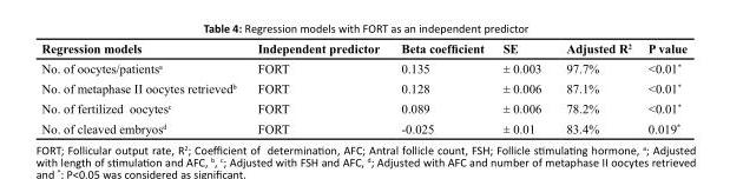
<table><thead><tr><td>Regression models</td><td>Independent predictor</td><td>Beta coefficient</td><td>SE</td><td>Adjusted R<sup>2</sup></td><td>P value</td></tr></thead><tbody><tr><td>No. of oocytes/patients<sup>a</sup></td><td>FORT</td><td>0.135</td><td>± 0.003</td><td>97.7%</td><td>&lt;0.01*</td></tr><tr><td>No. of metaphase II oocytes retrieved<sup>b</sup></td><td>FORT</td><td>0.128</td><td>± 0.006</td><td>87.1%</td><td>&lt;0.01*</td></tr><tr><td>No. of fertilized oocytes<sup>c</sup></td><td>FORT</td><td>0.089</td><td>± 0.006</td><td>78.2%</td><td>&lt;0.01*</td></tr><tr><td>No. of cleaved embryos<sup>d</sup></td><td>FORT</td><td>-0.025</td><td>± 0.01</td><td>83.4%</td><td>0.019*</td></tr></tbody></table>